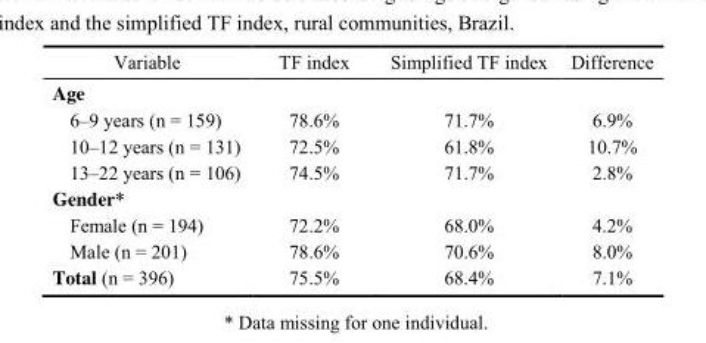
<table><thead><tr><td>Variable</td><td>TF index</td><td>Simplified TF index</td><td>Difference</td></tr></thead><tbody><tr><td colspan="4">Age</td></tr><tr><td>6–9 years (n = 159)</td><td>78.6%</td><td>71.7%</td><td>6.9%</td></tr><tr><td>10–12 years (n = 131)</td><td>72.5%</td><td>61.8%</td><td>10.7%</td></tr><tr><td>13–22 years (n = 106)</td><td>74.5%</td><td>71.7%</td><td>2.8%</td></tr><tr><td colspan="4">Gender*</td></tr><tr><td>Female (n = 194)</td><td>72.2%</td><td>68.0%</td><td>4.2%</td></tr><tr><td>Male (n = 201)</td><td>78.6%</td><td>70.6%</td><td>8.0%</td></tr><tr><td>Total (n = 396)</td><td>75.5%</td><td>68.4%</td><td>7.1%</td></tr></tbody></table>